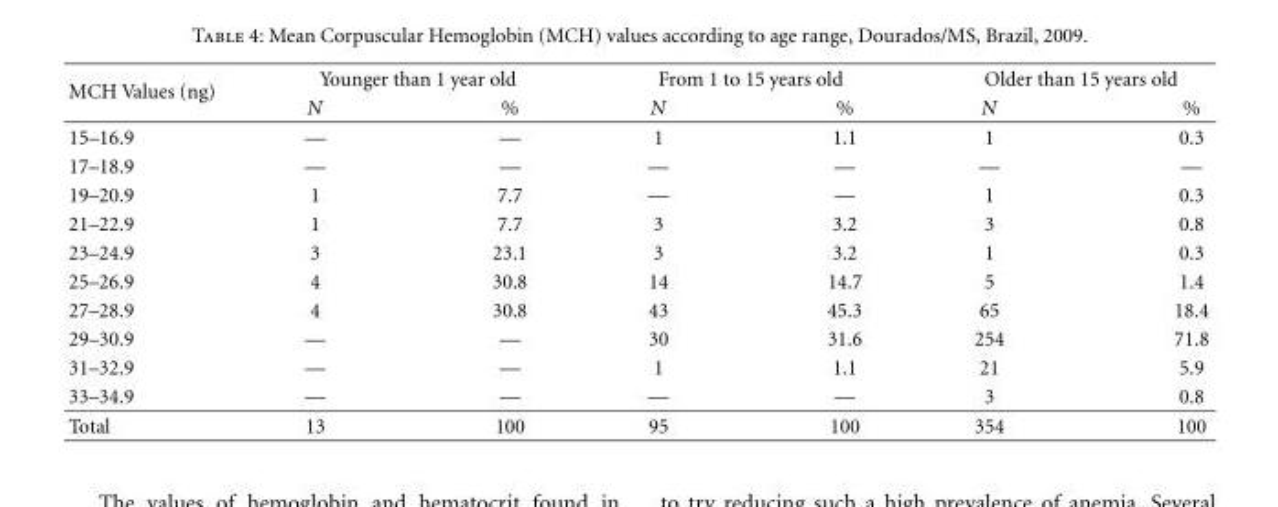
<table><thead><tr><td rowspan="2">MCH Values (ng)</td><td colspan="2">Younger than 1 year old</td><td colspan="2">From 1 to 15 years old</td><td colspan="2">Older than 15 years old</td></tr><tr><td>N</td><td>%</td><td>N</td><td>%</td><td>N</td><td>%</td></tr></thead><tbody><tr><td>15–16.9</td><td>—</td><td>—</td><td>1</td><td>1.1</td><td>1</td><td>0.3</td></tr><tr><td>17–18.9</td><td>—</td><td>—</td><td>—</td><td>—</td><td>—</td><td>—</td></tr><tr><td>19–20.9</td><td>1</td><td>7.7</td><td>—</td><td>—</td><td>1</td><td>0.3</td></tr><tr><td>21–22.9</td><td>1</td><td>7.7</td><td>3</td><td>3.2</td><td>3</td><td>0.8</td></tr><tr><td>23–24.9</td><td>3</td><td>23.1</td><td>3</td><td>3.2</td><td>1</td><td>0.3</td></tr><tr><td>25–26.9</td><td>4</td><td>30.8</td><td>14</td><td>14.7</td><td>5</td><td>1.4</td></tr><tr><td>27–28.9</td><td>4</td><td>30.8</td><td>43</td><td>45.3</td><td>65</td><td>18.4</td></tr><tr><td>29–30.9</td><td>—</td><td>—</td><td>30</td><td>31.6</td><td>254</td><td>71.8</td></tr><tr><td>31–32.9</td><td>—</td><td>—</td><td>1</td><td>1.1</td><td>21</td><td>5.9</td></tr><tr><td>33–34.9</td><td>—</td><td>—</td><td>—</td><td>—</td><td>3</td><td>0.8</td></tr><tr><td>Total</td><td>13</td><td>100</td><td>95</td><td>100</td><td>354</td><td>100</td></tr></tbody></table>